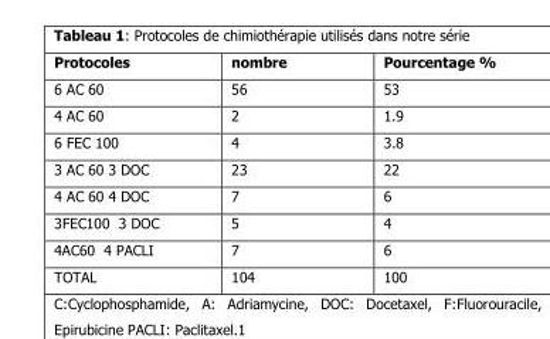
<table><thead><tr><td>Protocoles</td><td>nombre</td><td>Pourcentage %</td></tr></thead><tbody><tr><td>6 AC 60</td><td>56</td><td>53</td></tr><tr><td>4 AC 60</td><td>2</td><td>1.9</td></tr><tr><td>6 FEC 100</td><td>4</td><td>3.8</td></tr><tr><td>3 AC 60 3 DOC</td><td>23</td><td>22</td></tr><tr><td>4 AC 60 4 DOC</td><td>7</td><td>6</td></tr><tr><td>3FEC100 3 DOC</td><td>5</td><td>4</td></tr><tr><td>4AC60 4 PACLI</td><td>7</td><td>6</td></tr><tr><td>TOTAL</td><td>104</td><td>100</td></tr></tbody></table>